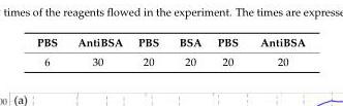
<table><thead><tr><td>PBS</td><td>AntiBSA</td><td>PBS</td><td>BSA</td><td>PBS</td><td>AntiBSA</td></tr></thead><tbody><tr><td>6</td><td>30</td><td>20</td><td>20</td><td>20</td><td>20</td></tr></tbody></table>